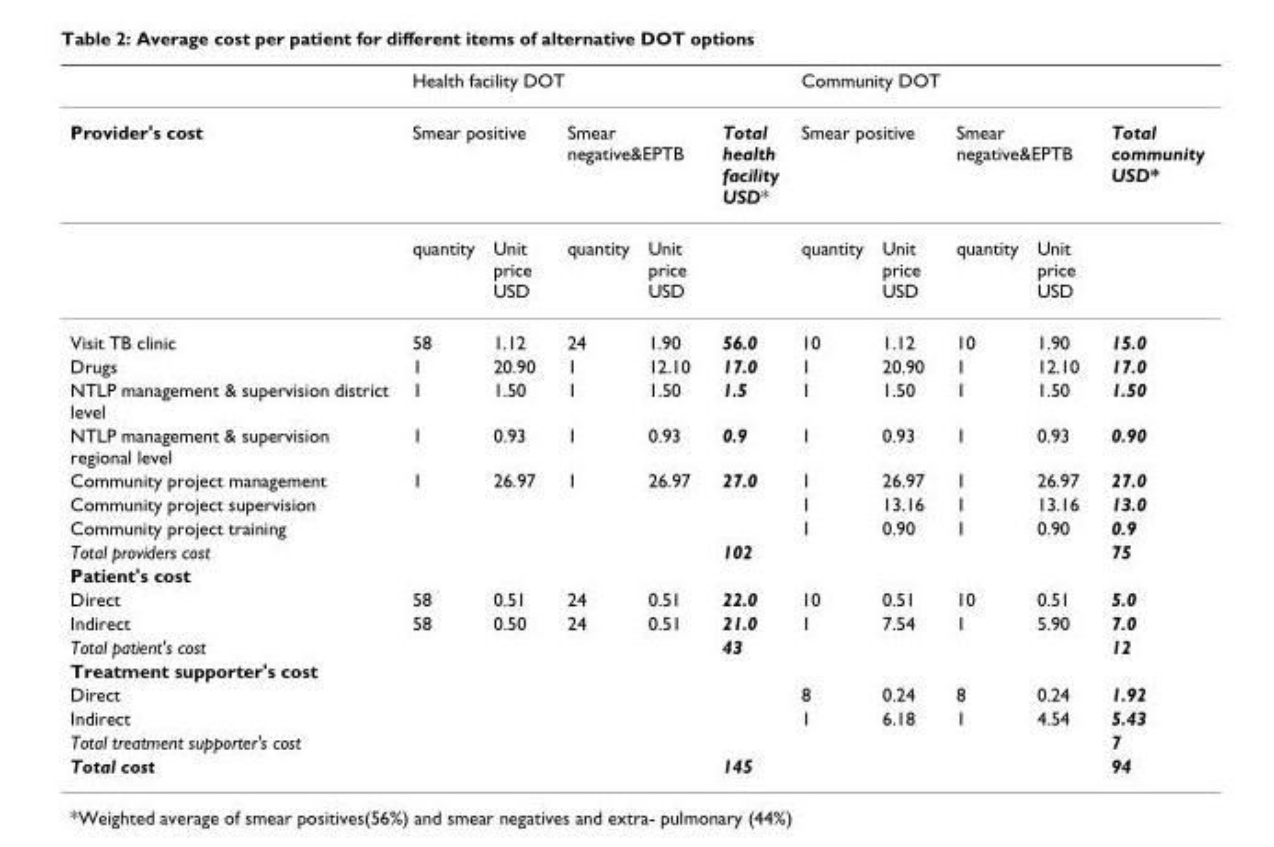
<table><thead><tr><td rowspan="3">Provider&#x27;s cost</td><td colspan="5">Health facility DOT</td><td colspan="5">Community DOT</td></tr><tr><td colspan="2">Smear positive</td><td colspan="2">Smear negative&amp;EPTB</td><td rowspan="2">Total health facility USD*</td><td colspan="2">Smear positive</td><td colspan="2">Smear negative&amp;EPTB</td><td rowspan="2">Total community USD*</td></tr><tr><td>quantity</td><td>Unit price USD</td><td>quantity</td><td>Unit price USD</td><td>quantity</td><td>Unit price USD</td><td>quantity</td><td>Unit price USD</td></tr></thead><tbody><tr><td>Visit TB clinic</td><td>58</td><td>1.12</td><td>24</td><td>1.90</td><td>56.0</td><td>10</td><td>1.12</td><td>10</td><td>1.90</td><td>15.0</td></tr><tr><td>Drugs</td><td>1</td><td>20.90</td><td>1</td><td>12.10</td><td>17.0</td><td>1</td><td>20.90</td><td>1</td><td>12.10</td><td>17.0</td></tr><tr><td>NTLP management &amp; supervision district level</td><td>1</td><td>1.50</td><td>1</td><td>1.50</td><td>1.5</td><td>1</td><td>1.50</td><td>1</td><td>1.50</td><td>1.50</td></tr><tr><td>NTLP management &amp; supervision regional level</td><td>1</td><td>0.93</td><td>1</td><td>0.93</td><td>0.9</td><td>1</td><td>0.93</td><td>1</td><td>0.93</td><td>0.90</td></tr><tr><td>Community project management</td><td>1</td><td>26.97</td><td>1</td><td>26.97</td><td>27.0</td><td>1</td><td>26.97</td><td>1</td><td>26.97</td><td>27.0</td></tr><tr><td>Community project supervision</td><td></td><td></td><td></td><td></td><td></td><td>1</td><td>13.16</td><td>1</td><td>13.16</td><td>13.0</td></tr><tr><td>Community project training</td><td></td><td></td><td></td><td></td><td></td><td>1</td><td>0.90</td><td>1</td><td>0.90</td><td>0.9</td></tr><tr><td colspan="5">Total providers cost</td><td>102</td><td></td><td></td><td></td><td></td><td>75</td></tr><tr><td colspan="11">Patient&#x27;s cost</td></tr><tr><td>Direct</td><td>58</td><td>0.51</td><td>24</td><td>0.51</td><td>22.0</td><td>10</td><td>0.51</td><td>10</td><td>0.51</td><td>5.0</td></tr><tr><td>Indirect</td><td>58</td><td>0.50</td><td>24</td><td>0.51</td><td>21.0</td><td>1</td><td>7.54</td><td>1</td><td>5.90</td><td>7.0</td></tr><tr><td colspan="5">Total patient&#x27;s cost</td><td>43</td><td></td><td></td><td></td><td></td><td>12</td></tr><tr><td colspan="11">Treatment supporter&#x27;s cost</td></tr><tr><td>Direct</td><td></td><td></td><td></td><td></td><td></td><td>8</td><td>0.24</td><td>8</td><td>0.24</td><td>1.92</td></tr><tr><td>Indirect</td><td></td><td></td><td></td><td></td><td></td><td>1</td><td>6.18</td><td>1</td><td>4.54</td><td>5.43</td></tr><tr><td colspan="5">Total treatment supporter&#x27;s cost</td><td></td><td></td><td></td><td></td><td></td><td>7</td></tr><tr><td>Total cost</td><td></td><td></td><td></td><td></td><td>145</td><td></td><td></td><td></td><td></td><td>94</td></tr></tbody></table>